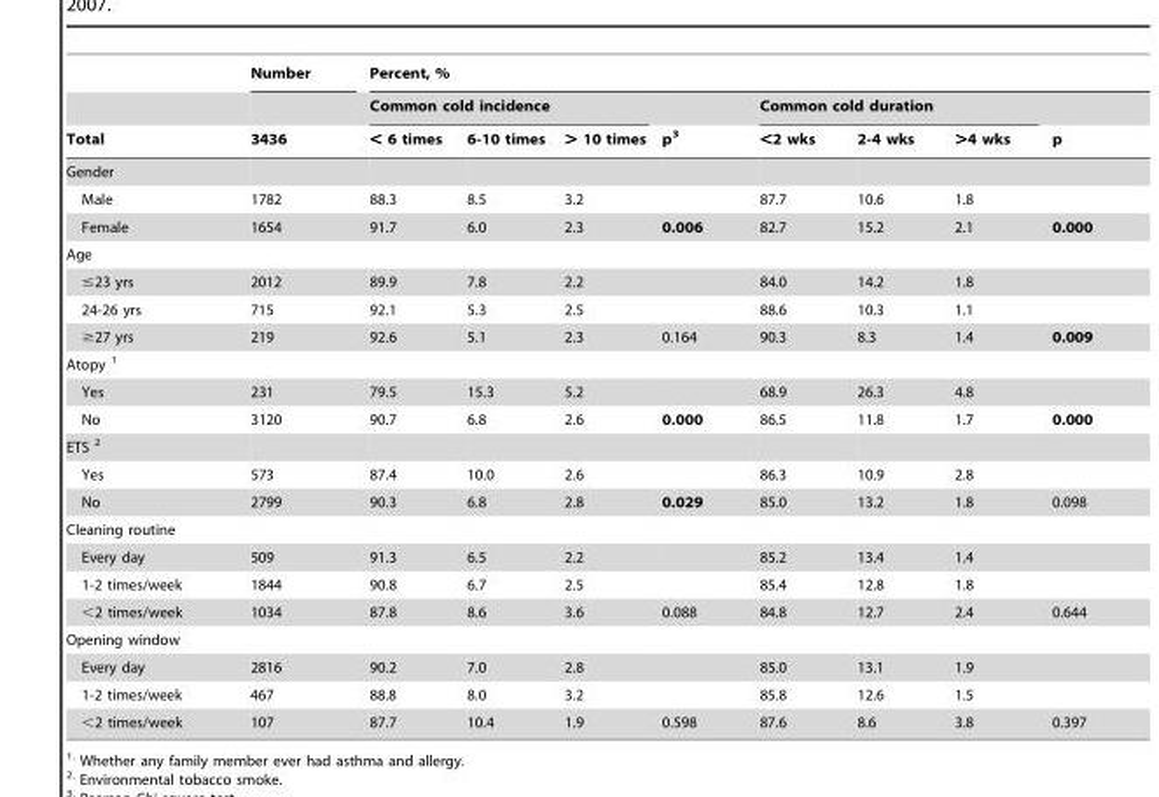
<table><thead><tr><td rowspan="3">Total</td><td rowspan="3">Number 3436</td><td colspan="8">Percent, %</td></tr><tr><td colspan="3">Common cold incidence</td><td rowspan="2">p<sup>3</sup></td><td colspan="3">Common cold duration</td><td rowspan="2">p</td></tr><tr><td>&lt; 6 times</td><td>6-10 times</td><td>&gt; 10 times</td><td>&lt;2 wks</td><td>2-4 wks</td><td>&gt;4 wks</td></tr></thead><tbody><tr><td colspan="10">Gender</td></tr><tr><td>Male</td><td>1782</td><td>88.3</td><td>8.5</td><td>3.2</td><td></td><td>87.7</td><td>10.6</td><td>1.8</td><td></td></tr><tr><td>Female</td><td>1654</td><td>91.7</td><td>6.0</td><td>2.3</td><td>0.006</td><td>82.7</td><td>15.2</td><td>2.1</td><td>0.000</td></tr><tr><td colspan="10">Age</td></tr><tr><td>≤23 yrs</td><td>2012</td><td>89.9</td><td>7.8</td><td>2.2</td><td></td><td>84.0</td><td>14.2</td><td>1.8</td><td></td></tr><tr><td>24-26 yrs</td><td>715</td><td>92.1</td><td>5.3</td><td>2.5</td><td></td><td>88.6</td><td>10.3</td><td>1.1</td><td></td></tr><tr><td>≥27 yrs</td><td>219</td><td>92.6</td><td>5.1</td><td>2.3</td><td>0.164</td><td>90.3</td><td>8.3</td><td>1.4</td><td>0.009</td></tr><tr><td colspan="10">Atopy 1</td></tr><tr><td>Yes</td><td>231</td><td>79.5</td><td>15.3</td><td>5.2</td><td></td><td>68.9</td><td>26.3</td><td>4.8</td><td></td></tr><tr><td>No</td><td>3120</td><td>90.7</td><td>6.8</td><td>2.6</td><td>0.000</td><td>86.5</td><td>11.8</td><td>1.7</td><td>0.000</td></tr><tr><td colspan="10">ETS 2</td></tr><tr><td>Yes</td><td>573</td><td>87.4</td><td>10.0</td><td>2.6</td><td></td><td>86.3</td><td>10.9</td><td>2.8</td><td></td></tr><tr><td>No</td><td>2799</td><td>90.3</td><td>6.8</td><td>2.8</td><td>0.029</td><td>85.0</td><td>13.2</td><td>1.8</td><td>0.098</td></tr><tr><td colspan="10">Cleaning routine</td></tr><tr><td>Every day</td><td>509</td><td>91.3</td><td>6.5</td><td>2.2</td><td></td><td>85.2</td><td>13.4</td><td>1.4</td><td></td></tr><tr><td>1-2 times/week</td><td>1844</td><td>90.8</td><td>6.7</td><td>2.5</td><td></td><td>85.4</td><td>12.8</td><td>1.8</td><td></td></tr><tr><td>&lt;2 times/week</td><td>1034</td><td>87.8</td><td>8.6</td><td>3.6</td><td>0.088</td><td>84.8</td><td>12.7</td><td>2.4</td><td>0.644</td></tr><tr><td colspan="10">Opening window</td></tr><tr><td>Every day</td><td>2816</td><td>90.2</td><td>7.0</td><td>2.8</td><td></td><td>85.0</td><td>13.1</td><td>1.9</td><td></td></tr><tr><td>1-2 times/week</td><td>467</td><td>88.8</td><td>8.0</td><td>3.2</td><td></td><td>85.8</td><td>12.6</td><td>1.5</td><td></td></tr><tr><td>&lt;2 times/week</td><td>107</td><td>87.7</td><td>10.4</td><td>1.9</td><td>0.598</td><td>87.6</td><td>8.6</td><td>3.8</td><td>0.397</td></tr></tbody></table>